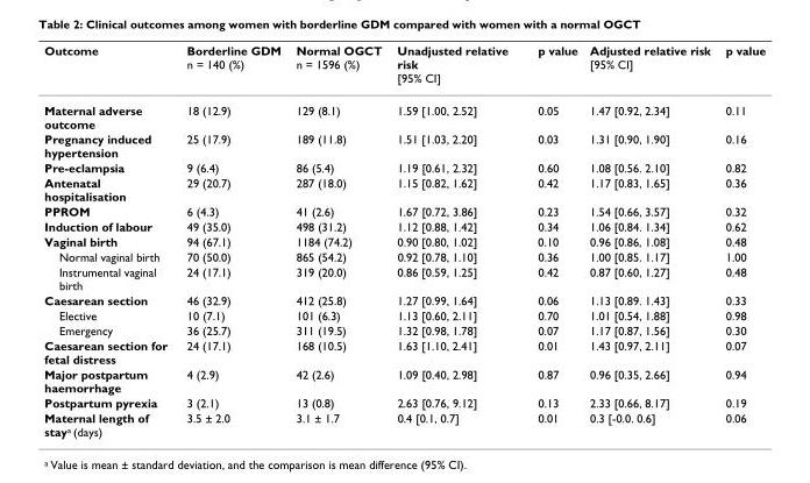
<table><thead><tr><td>Outcome</td><td>Borderline GDM n = 140 (%)</td><td>Normal OGCT n = 1596 (%)</td><td>Unadjusted relative risk [95% CI]</td><td>p value</td><td>Adjusted relative risk [95% CI]</td><td>p value</td></tr></thead><tbody><tr><td>Maternal adverse outcome</td><td>18 (12.9)</td><td>129 (8.1)</td><td>1.59 [1.00, 2.52]</td><td>0.05</td><td>1.47 [0.92, 2.34]</td><td>0.11</td></tr><tr><td>Pregnancy induced hypertension</td><td>25 (17.9)</td><td>189 (11.8)</td><td>1.51 [1.03, 2.20]</td><td>0.03</td><td>1.31 [0.90, 1.90]</td><td>0.16</td></tr><tr><td>Pre-eclampsia</td><td>9 (6.4)</td><td>86 (5.4)</td><td>1.19 [0.61, 2.32]</td><td>0.60</td><td>1.08 [0.56. 2.10]</td><td>0.82</td></tr><tr><td>Antenatal hospitalisation</td><td>29 (20.7)</td><td>287 (18.0)</td><td>1.15 [0.82, 1.62]</td><td>0.42</td><td>1.17 [0.83, 1.65]</td><td>0.36</td></tr><tr><td>PPROM</td><td>6 (4.3)</td><td>41 (2.6)</td><td>1.67 [0.72, 3.86]</td><td>0.23</td><td>1.54 [0.66, 3.57]</td><td>0.32</td></tr><tr><td>Induction of labour</td><td>49 (35.0)</td><td>498 (31.2)</td><td>1.12 [0.88, 1.42]</td><td>0.34</td><td>1.06 [0.84. 1.34]</td><td>0.62</td></tr><tr><td>Vaginal birth</td><td>94 (67.1)</td><td>1184 (74.2)</td><td>0.90 [0.80, 1.02]</td><td>0.10</td><td>0.96 [0.86, 1.08]</td><td>0.48</td></tr><tr><td>Normal vaginal birth</td><td>70 (50.0)</td><td>865 (54.2)</td><td>0.92 [0.78, 1.10]</td><td>0.36</td><td>1.00 [0.85. 1.17]</td><td>1.00</td></tr><tr><td>Instrumental vaginal birth</td><td>24 (17.1)</td><td>319 (20.0)</td><td>0.86 [0.59, 1.25]</td><td>0.42</td><td>0.87 [0.60, 1.27]</td><td>0.48</td></tr><tr><td>Caesarean section</td><td>46 (32.9)</td><td>412 (25.8)</td><td>1.27 [0.99, 1.64]</td><td>0.06</td><td>1.13 [0.89. 1.43]</td><td>0.33</td></tr><tr><td>Elective</td><td>10 (7.1)</td><td>101 (6.3)</td><td>1.13 [0.60, 2.11]</td><td>0.70</td><td>1.01 [0.54, 1.88]</td><td>0.98</td></tr><tr><td>Emergency</td><td>36 (25.7)</td><td>311 (19.5)</td><td>1.32 [0.98, 1.78]</td><td>0.07</td><td>1.17 [0.87, 1.56]</td><td>0.30</td></tr><tr><td>Caesarean section for fetal distress</td><td>24 (17.1)</td><td>168 (10.5)</td><td>1.63 [1.10, 2.41]</td><td>0.01</td><td>1.43 [0.97, 2.11]</td><td>0.07</td></tr><tr><td>Major postpartum haemorrhage</td><td>4 (2.9)</td><td>42 (2.6)</td><td>1.09 [0.40, 2.98]</td><td>0.87</td><td>0.96 [0.35, 2.66]</td><td>0.94</td></tr><tr><td>Postpartum pyrexia</td><td>3 (2.1)</td><td>13 (0.8)</td><td>2.63 [0.76, 9.12]</td><td>0.13</td><td>2.33 [0.66, 8.17]</td><td>0.19</td></tr><tr><td>Maternal length of stay<sup>a</sup> (days)</td><td>3.5 ± 2.0</td><td>3.1 ± 1.7</td><td>0.4 [0.1, 0.7]</td><td>0.01</td><td>0.3 [-0.0. 0.6]</td><td>0.06</td></tr></tbody></table>